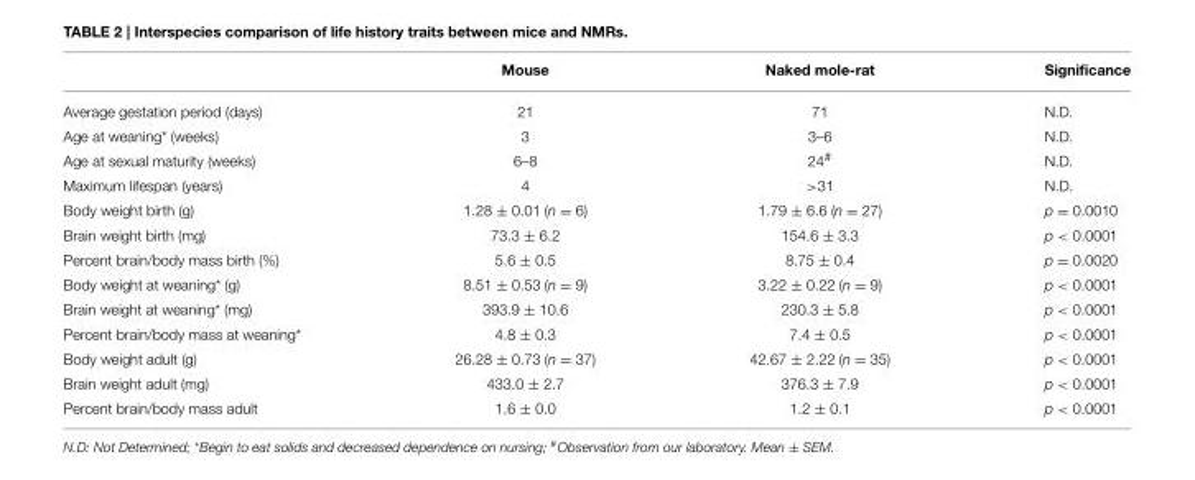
<table><thead><tr><td></td><td>Mouse</td><td>Naked mole-rat</td><td>Significance</td></tr></thead><tbody><tr><td>Average gestation period (days)</td><td>21</td><td>71</td><td>N.D.</td></tr><tr><td>Age at weaning* (weeks)</td><td>3</td><td>3–6</td><td>N.D.</td></tr><tr><td>Age at sexual maturity (weeks)</td><td>6–8</td><td>24<sup>#</sup></td><td>N.D.</td></tr><tr><td>Maximum lifespan (years)</td><td>4</td><td>&gt;31</td><td>N.D.</td></tr><tr><td>Body weight birth (g)</td><td>1.28 ± 0.01 (n = 6)</td><td>1.79 ± 6.6 (n = 27)</td><td>p = 0.0010</td></tr><tr><td>Brain weight birth (mg)</td><td>73.3 ± 6.2</td><td>154.6 ± 3.3</td><td>p &lt; 0.0001</td></tr><tr><td>Percent brain/body mass birth (%)</td><td>5.6 ± 0.5</td><td>8.75 ± 0.4</td><td>p = 0.0020</td></tr><tr><td>Body weight at weaning* (g)</td><td>8.51 ± 0.53 (n = 9)</td><td>3.22 ± 0.22 (n = 9)</td><td>p &lt; 0.0001</td></tr><tr><td>Brain weight at weaning* (mg)</td><td>393.9 ± 10.6</td><td>230.3 ± 5.8</td><td>p &lt; 0.0001</td></tr><tr><td>Percent brain/body mass at weaning*</td><td>4.8 ± 0.3</td><td>7.4 ± 0.5</td><td>p &lt; 0.0001</td></tr><tr><td>Body weight adult (g)</td><td>26.28 ± 0.73 (n = 37)</td><td>42.67 ± 2.22 (n = 35)</td><td>p &lt; 0.0001</td></tr><tr><td>Brain weight adult (mg)</td><td>433.0 ± 2.7</td><td>376.3 ± 7.9</td><td>p &lt; 0.0001</td></tr><tr><td>Percent brain/body mass adult</td><td>1.6 ± 0.0</td><td>1.2 ± 0.1</td><td>p &lt; 0.0001</td></tr></tbody></table>